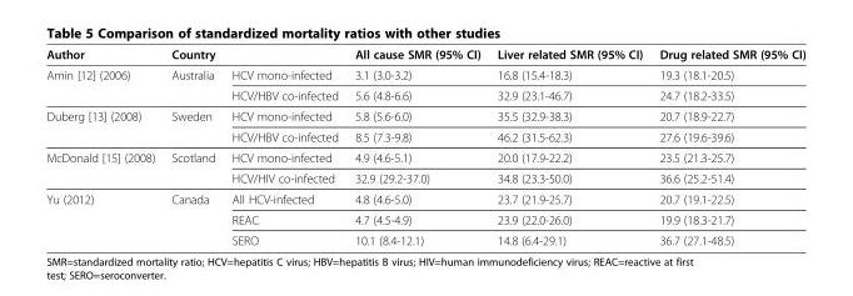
<table><thead><tr><td>Author</td><td>Country</td><td></td><td>All cause SMR (95% CI)</td><td>Liver related SMR (95% CI)</td><td>Drug related SMR (95% CI)</td></tr></thead><tbody><tr><td rowspan="2">Amin [12] (2006)</td><td rowspan="2">Australia</td><td>HCV mono-infected</td><td>3.1 (3.0-3.2)</td><td>16.8 (15.4-18.3)</td><td>19.3 (18.1-20.5)</td></tr><tr><td>HCV/HBV co-infected</td><td>5.6 (4.8-6.6)</td><td>32.9 (23.1-46.7)</td><td>24.7 (18.2-33.5)</td></tr><tr><td rowspan="2">Duberg [13] (2008)</td><td rowspan="2">Sweden</td><td>HCV mono-infected</td><td>5.8 (5.6-6.0)</td><td>35.5 (32.9-38.3)</td><td>20.7 (18.9-22.7)</td></tr><tr><td>HCV/HBV co-infected</td><td>8.5 (7.3-9.8)</td><td>46.2 (31.5-62.3)</td><td>27.6 (19.6-39.6)</td></tr><tr><td rowspan="2">McDonald [15] (2008)</td><td rowspan="2">Scotland</td><td>HCV mono-infected</td><td>4.9 (4.6-5.1)</td><td>20.0 (17.9-22.2)</td><td>23.5 (21.3-25.7)</td></tr><tr><td>HCV/HIV co-infected</td><td>32.9 (29.2-37.0)</td><td>34.8 (23.3-50.0)</td><td>36.6 (25.2-51.4)</td></tr><tr><td rowspan="3">Yu (2012)</td><td rowspan="3">Canada</td><td>All HCV-infected</td><td>4.8 (4.6-5.0)</td><td>23.7 (21.9-25.7)</td><td>20.7 (19.1-22.5)</td></tr><tr><td>REAC</td><td>4.7 (4.5-4.9)</td><td>23.9 (22.0-26.0)</td><td>19.9 (18.3-21.7)</td></tr><tr><td>SERO</td><td>10.1 (8.4-12.1)</td><td>14.8 (6.4-29.1)</td><td>36.7 (27.1-48.5)</td></tr></tbody></table>